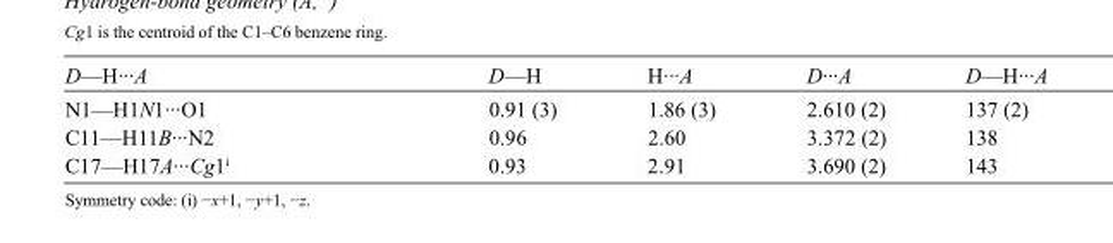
<table><tbody><tr><td>D—H···A</td><td>D—H</td><td>H···A</td><td>D···A</td><td>D—H···A</td></tr><tr><td>N1—H1N1···O1</td><td>0.91 (3)</td><td>1.86 (3)</td><td>2.610 (2)</td><td>137 (2)</td></tr><tr><td>C11—H11B···N2</td><td>0.96</td><td>2.60</td><td>3.372 (2)</td><td>138</td></tr><tr><td>C17—H17A···Cg1<sup>i</sup></td><td>0.93</td><td>2.91</td><td>3.690 (2)</td><td>143</td></tr></tbody></table>